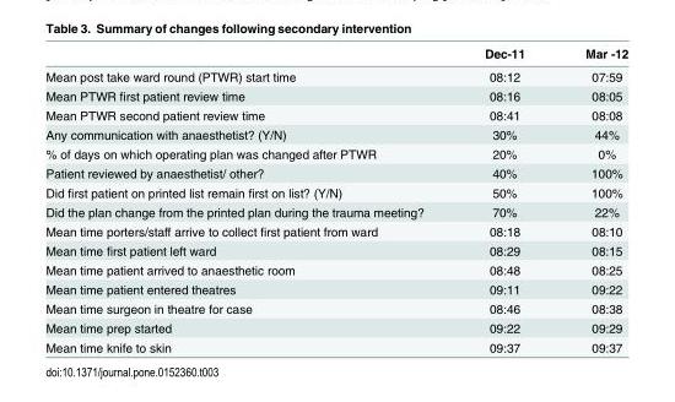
<table><thead><tr><td></td><td>Dec-11</td><td>Mar -12</td></tr></thead><tbody><tr><td>Mean post take ward round (PTWR) start time</td><td>08:12</td><td>07:59</td></tr><tr><td>Mean PTWR first patient review time</td><td>08:16</td><td>08:05</td></tr><tr><td>Mean PTWR second patient review time</td><td>08:41</td><td>08:08</td></tr><tr><td>Any communication with anaesthetist? (Y/N)</td><td>30%</td><td>44%</td></tr><tr><td>% of days on which operating plan was changed after PTWR</td><td>20%</td><td>0%</td></tr><tr><td>Patient reviewed by anaesthetist/ other?</td><td>40%</td><td>100%</td></tr><tr><td>Did first patient on printed list remain first on list? (Y/N)</td><td>50%</td><td>100%</td></tr><tr><td>Did the plan change from the printed plan during the trauma meeting?</td><td>70%</td><td>22%</td></tr><tr><td>Mean time porters/staff arrive to collect first patient from ward</td><td>08:18</td><td>08:10</td></tr><tr><td>Mean time first patient left ward</td><td>08:29</td><td>08:15</td></tr><tr><td>Mean time patient arrived to anaesthetic room</td><td>08:48</td><td>08:25</td></tr><tr><td>Mean time patient entered theatres</td><td>09:11</td><td>09:22</td></tr><tr><td>Mean time surgeon in theatre for case</td><td>08:46</td><td>08:38</td></tr><tr><td>Mean time prep started</td><td>09:22</td><td>09:29</td></tr><tr><td>Mean time knife to skin</td><td>09:37</td><td>09:37</td></tr></tbody></table>